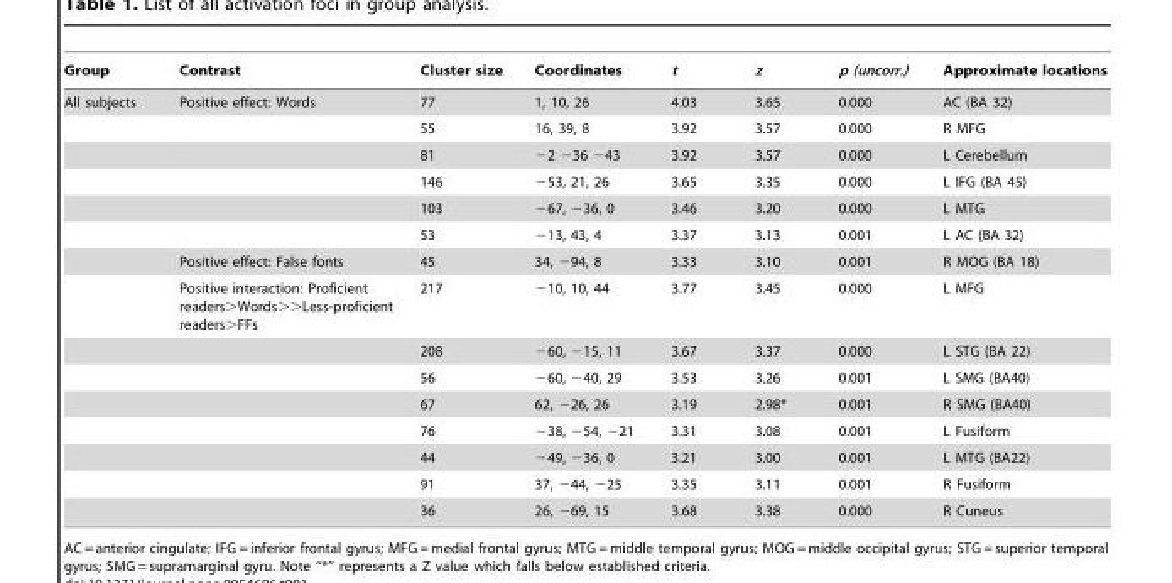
<table><thead><tr><td>Group</td><td>Contrast</td><td>Cluster size</td><td>Coordinates</td><td>t</td><td>z</td><td>p (uncorr.)</td><td>Approximate locations</td></tr></thead><tbody><tr><td rowspan="15">All subjects</td><td>Positive effect: Words</td><td>77</td><td>1, 10, 26</td><td>4.03</td><td>3.65</td><td>0.000</td><td>AC (BA 32)</td></tr><tr><td></td><td>55</td><td>16, 39, 8</td><td>3.92</td><td>3.57</td><td>0.000</td><td>R MFG</td></tr><tr><td></td><td>81</td><td>−2 −36 −43</td><td>3.92</td><td>3.57</td><td>0.000</td><td>L Cerebellum</td></tr><tr><td></td><td>146</td><td>−53, 21, 26</td><td>3.65</td><td>3.35</td><td>0.000</td><td>L IFG (BA 45)</td></tr><tr><td></td><td>103</td><td>−67, −36, 0</td><td>3.46</td><td>3.20</td><td>0.000</td><td>L MTG</td></tr><tr><td></td><td>53</td><td>−13, 43, 4</td><td>3.37</td><td>3.13</td><td>0.001</td><td>L AC (BA 32)</td></tr><tr><td>Positive effect: False fonts</td><td>45</td><td>34, −94, 8</td><td>3.33</td><td>3.10</td><td>0.001</td><td>R MOG (BA 18)</td></tr><tr><td>Positive interaction: Proficient readers&gt;Words&gt;&gt;Less-proficient readers&gt;FFs</td><td>217</td><td>−10, 10, 44</td><td>3.77</td><td>3.45</td><td>0.000</td><td>L MFG</td></tr><tr><td></td><td>208</td><td>−60, −15, 11</td><td>3.67</td><td>3.37</td><td>0.000</td><td>L STG (BA 22)</td></tr><tr><td></td><td>56</td><td>−60, −40, 29</td><td>3.53</td><td>3.26</td><td>0.001</td><td>L SMG (BA40)</td></tr><tr><td></td><td>67</td><td>62, −26, 26</td><td>3.19</td><td>2.98*</td><td>0.001</td><td>R SMG (BA40)</td></tr><tr><td></td><td>76</td><td>−38, −54, −21</td><td>3.31</td><td>3.08</td><td>0.001</td><td>L Fusiform</td></tr><tr><td></td><td>44</td><td>−49, −36, 0</td><td>3.21</td><td>3.00</td><td>0.001</td><td>L MTG (BA22)</td></tr><tr><td></td><td>91</td><td>37, −44, −25</td><td>3.35</td><td>3.11</td><td>0.001</td><td>R Fusiform</td></tr><tr><td></td><td>36</td><td>26, −69, 15</td><td>3.68</td><td>3.38</td><td>0.000</td><td>R Cuneus</td></tr></tbody></table>